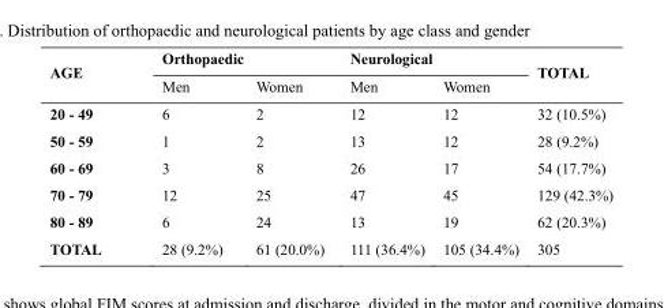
<table><thead><tr><td rowspan="2">AGE</td><td colspan="2">Orthopaedic</td><td colspan="2">Neurological</td><td rowspan="2">TOTAL</td></tr><tr><td>Men</td><td>Women</td><td>Men</td><td>Women</td></tr></thead><tbody><tr><td>20 - 49</td><td>6</td><td>2</td><td>12</td><td>12</td><td>32 (10.5%)</td></tr><tr><td>50 - 59</td><td>1</td><td>2</td><td>13</td><td>12</td><td>28 (9.2%)</td></tr><tr><td>60 - 69</td><td>3</td><td>8</td><td>26</td><td>17</td><td>54 (17.7%)</td></tr><tr><td>70 - 79</td><td>12</td><td>25</td><td>47</td><td>45</td><td>129 (42.3%)</td></tr><tr><td>80 - 89</td><td>6</td><td>24</td><td>13</td><td>19</td><td>62 (20.3%)</td></tr><tr><td>TOTAL</td><td>28 (9.2%)</td><td>61 (20.0%)</td><td>111 (36.4%)</td><td>105 (34.4%)</td><td>305</td></tr></tbody></table>